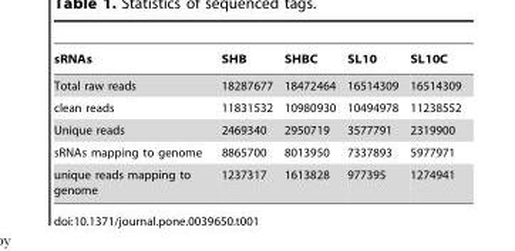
<table><thead><tr><td>sRNAs</td><td>SHB</td><td>SHBC</td><td>SL10</td><td>SL10C</td></tr></thead><tbody><tr><td>Total raw reads</td><td>18287677</td><td>18472464</td><td>16514309</td><td>16514309</td></tr><tr><td>clean reads</td><td>11831532</td><td>10980930</td><td>10494978</td><td>11238552</td></tr><tr><td>Unique reads</td><td>2469340</td><td>2950719</td><td>3577791</td><td>2319900</td></tr><tr><td>sRNAs mapping to genome</td><td>8865700</td><td>8013950</td><td>7337893</td><td>5977971</td></tr><tr><td>unique reads mapping to genome</td><td>1237317</td><td>1613828</td><td>977395</td><td>1274941</td></tr></tbody></table>